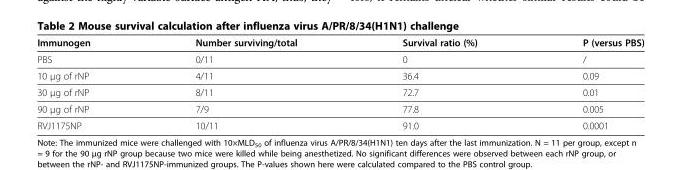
<table><thead><tr><td>Immunogen</td><td>Number surviving/total</td><td>Survival ratio (%)</td><td>P (versus PBS)</td></tr></thead><tbody><tr><td>PBS</td><td>0/11</td><td>0</td><td>/</td></tr><tr><td>10 μg of rNP</td><td>4/11</td><td>36.4</td><td>0.09</td></tr><tr><td>30 μg of rNP</td><td>8/11</td><td>72.7</td><td>0.01</td></tr><tr><td>90 μg of rNP</td><td>7/9</td><td>77.8</td><td>0.005</td></tr><tr><td>RVJ1175NP</td><td>10/11</td><td>91.0</td><td>0.0001</td></tr></tbody></table>